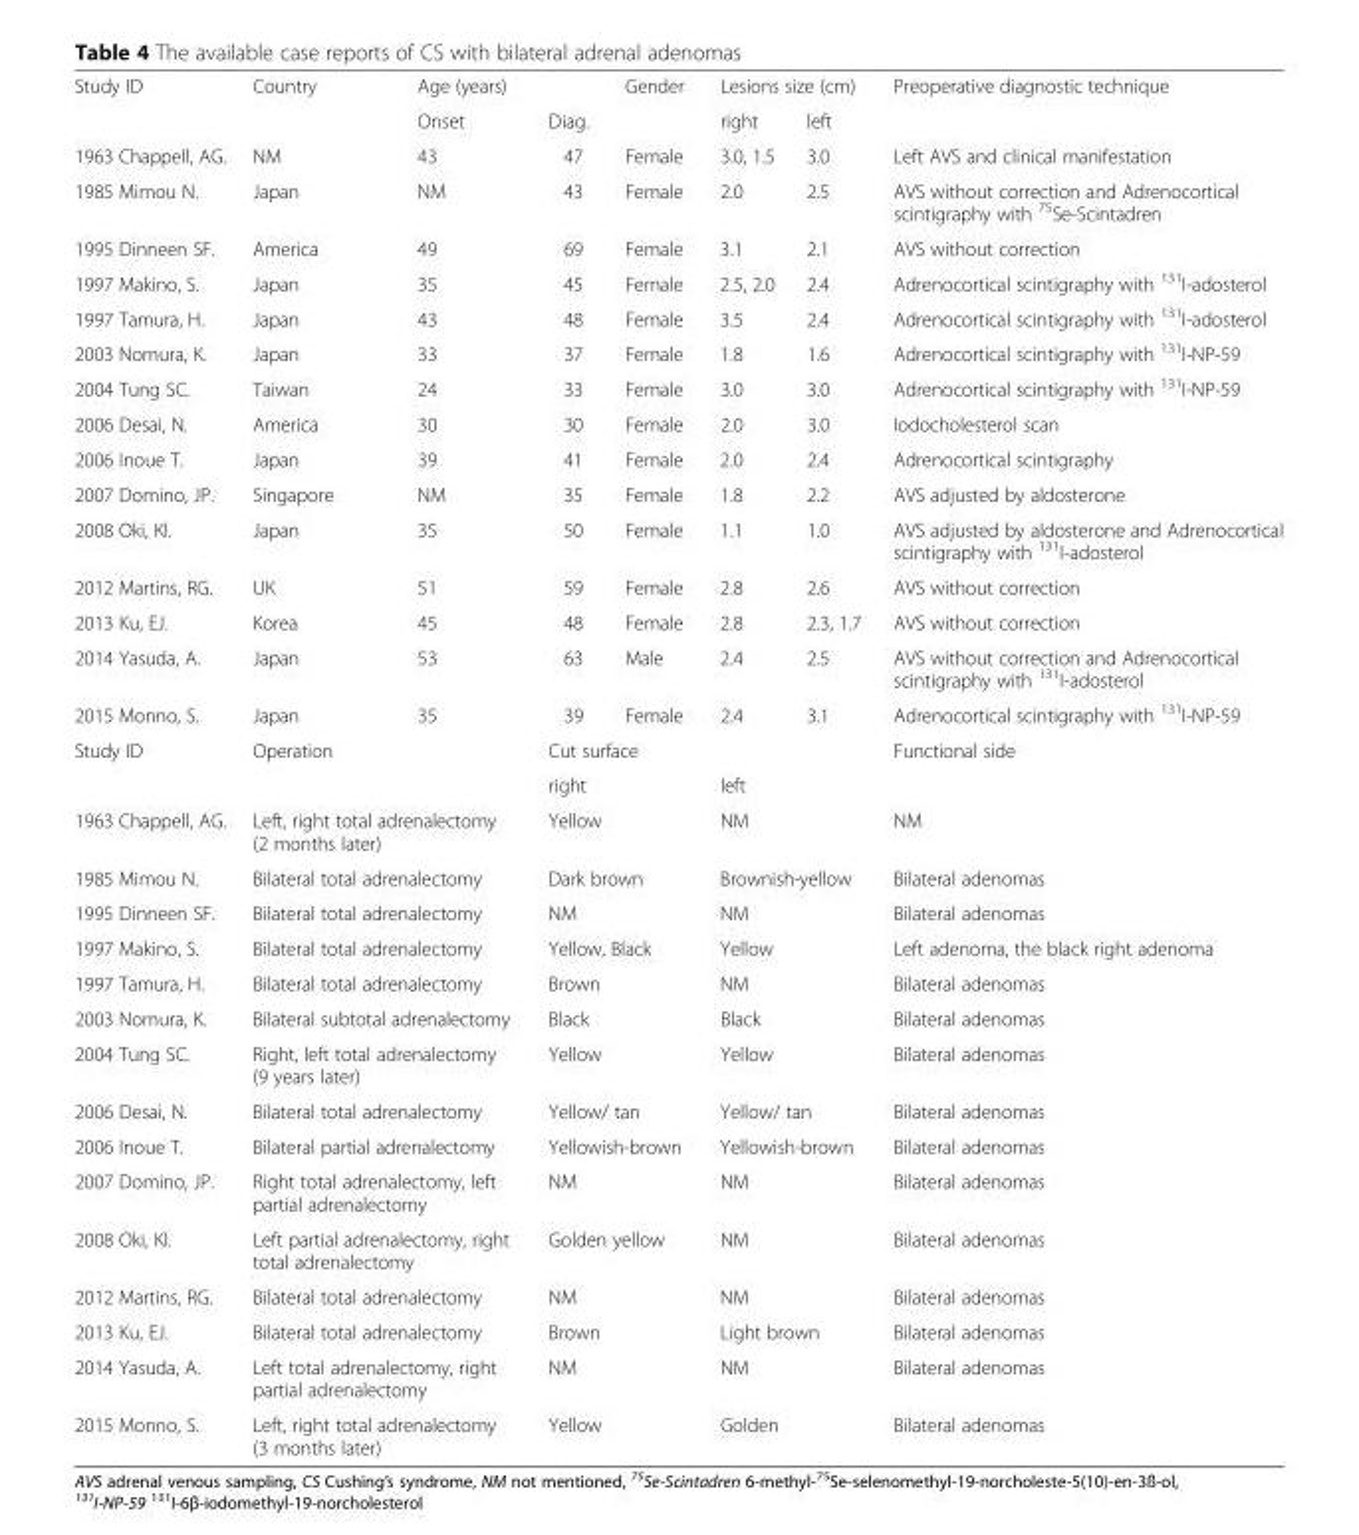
<table><tbody><tr><td rowspan="2">Study ID</td><td rowspan="2">Country</td><td colspan="2">Age (years)</td><td rowspan="2">Gender</td><td colspan="2">Lesions size (cm)</td><td rowspan="2">Preoperative diagnostic technique</td></tr><tr><td>Onset</td><td>Diag.</td><td>right</td><td>left</td></tr><tr><td>1963 Chappell, AG.</td><td>NM</td><td>43</td><td>47</td><td>Female</td><td>3.0, 1.5</td><td>3.0</td><td>Left AVS and clinical manifestation</td></tr><tr><td>1985 Mimou N.</td><td>Japan</td><td>NM</td><td>43</td><td>Female</td><td>2.0</td><td>2.5</td><td>AVS without correction and Adrenocortical scintigraphy with <sup>75</sup>Se-Scintadren</td></tr><tr><td>1995 Dinneen SF.</td><td>America</td><td>49</td><td>69</td><td>Female</td><td>3.1</td><td>2.1</td><td>AVS without correction</td></tr><tr><td>1997 Makino, S.</td><td>Japan</td><td>35</td><td>45</td><td>Female</td><td>2.5, 2.0</td><td>2.4</td><td>Adrenocortical scintigraphy with <sup>131</sup>I-adosterol</td></tr><tr><td>1997 Tamura, H.</td><td>Japan</td><td>43</td><td>48</td><td>Female</td><td>3.5</td><td>2.4</td><td>Adrenocortical scintigraphy with <sup>131</sup>I-adosterol</td></tr><tr><td>2003 Nomura, K.</td><td>Japan</td><td>33</td><td>37</td><td>Female</td><td>1.8</td><td>1.6</td><td>Adrenocortical scintigraphy with <sup>131</sup>I-NP-59</td></tr><tr><td>2004 Tung SC.</td><td>Taiwan</td><td>24</td><td>33</td><td>Female</td><td>3.0</td><td>3.0</td><td>Adrenocortical scintigraphy with <sup>131</sup>I-NP-59</td></tr><tr><td>2006 Desai, N.</td><td>America</td><td>30</td><td>30</td><td>Female</td><td>2.0</td><td>3.0</td><td>Iodocholesterol scan</td></tr><tr><td>2006 Inoue T.</td><td>Japan</td><td>39</td><td>41</td><td>Female</td><td>2.0</td><td>2.4</td><td>Adrenocortical scintigraphy</td></tr><tr><td>2007 Domino, JP.</td><td>Singapore</td><td>NM</td><td>35</td><td>Female</td><td>1.8</td><td>2.2</td><td>AVS adjusted by aldosterone</td></tr><tr><td>2008 Oki, Kl.</td><td>Japan</td><td>35</td><td>50</td><td>Female</td><td>1.1</td><td>1.0</td><td>AVS adjusted by aldosterone and Adrenocortical scintigraphy with <sup>131</sup>I-adosterol</td></tr><tr><td>2012 Martins, RG.</td><td>UK</td><td>51</td><td>59</td><td>Female</td><td>2.8</td><td>2.6</td><td>AVS without correction</td></tr><tr><td>2013 Ku, EJ.</td><td>Korea</td><td>45</td><td>48</td><td>Female</td><td>2.8</td><td>2.3, 1.7</td><td>AVS without correction</td></tr><tr><td>2014 Yasuda, A.</td><td>Japan</td><td>53</td><td>63</td><td>Male</td><td>2.4</td><td>2.5</td><td>AVS without correction and Adrenocortical scintigraphy with <sup>131</sup>I-adosterol</td></tr><tr><td>2015 Monno, S.</td><td>Japan</td><td>35</td><td>39</td><td>Female</td><td>2.4</td><td>3.1</td><td>Adrenocortical scintigraphy with <sup>131</sup>I-NP-59</td></tr><tr><td rowspan="2">Study ID</td><td rowspan="2" colspan="2">Operation</td><td colspan="4">Cut surface</td><td rowspan="2">Functional side</td></tr><tr><td colspan="2">right</td><td colspan="2">left</td></tr><tr><td>1963 Chappell, AG.</td><td colspan="2">Left, right total adrenalectomy (2 months later)</td><td colspan="2">Yellow</td><td colspan="2">NM</td><td>NM</td></tr><tr><td>1985 Mimou N.</td><td colspan="2">Bilateral total adrenalectomy</td><td colspan="2">Dark brown</td><td colspan="2">Brownish-yellow</td><td>Bilateral adenomas</td></tr><tr><td>1995 Dinneen SF.</td><td colspan="2">Bilateral total adrenalectomy</td><td colspan="2">NM</td><td colspan="2">NM</td><td>Bilateral adenomas</td></tr><tr><td>1997 Makino, S.</td><td colspan="2">Bilateral total adrenalectomy</td><td colspan="2">Yellow, Black</td><td colspan="2">Yellow</td><td>Left adenoma, the black right adenoma</td></tr><tr><td>1997 Tamura, H.</td><td colspan="2">Bilateral total adrenalectomy</td><td colspan="2">Brown</td><td colspan="2">NM</td><td>Bilateral adenomas</td></tr><tr><td>2003 Nomura, K.</td><td colspan="2">Bilateral subtotal adrenalectomy</td><td colspan="2">Black</td><td colspan="2">Black</td><td>Bilateral adenomas</td></tr><tr><td>2004 Tung SC.</td><td colspan="2">Right, left total adrenalectomy (9 years later)</td><td colspan="2">Yellow</td><td colspan="2">Yellow</td><td>Bilateral adenomas</td></tr><tr><td>2006 Desai, N.</td><td colspan="2">Bilateral total adrenalectomy</td><td colspan="2">Yellow/ tan</td><td colspan="2">Yellow/ tan</td><td>Bilateral adenomas</td></tr><tr><td>2006 Inoue T.</td><td colspan="2">Bilateral partial adrenalectomy</td><td colspan="2">Yellowish-brown</td><td colspan="2">Yellowish-brown</td><td>Bilateral adenomas</td></tr><tr><td>2007 Domino, JP.</td><td colspan="2">Right total adrenalectomy, left partial adrenalectomy</td><td colspan="2">NM</td><td colspan="2">NM</td><td>Bilateral adenomas</td></tr><tr><td>2008 Oki, Kl.</td><td colspan="2">Left partial adrenalectomy, right total adrenalectomy</td><td colspan="2">Golden yellow</td><td colspan="2">NM</td><td>Bilateral adenomas</td></tr><tr><td>2012 Martins, RG.</td><td colspan="2">Bilateral total adrenalectomy</td><td colspan="2">NM</td><td colspan="2">NM</td><td>Bilateral adenomas</td></tr><tr><td>2013 Ku, EJ.</td><td colspan="2">Bilateral total adrenalectomy</td><td colspan="2">Brown</td><td colspan="2">Light brown</td><td>Bilateral adenomas</td></tr><tr><td>2014 Yasuda, A.</td><td colspan="2">Left total adrenalectomy, right partial adrenalectomy</td><td colspan="2">NM</td><td colspan="2">NM</td><td>Bilateral adenomas</td></tr><tr><td>2015 Monno, S.</td><td colspan="2">Left, right total adrenalectomy (3 months later)</td><td colspan="2">Yellow</td><td colspan="2">Golden</td><td>Bilateral adenomas</td></tr></tbody></table>